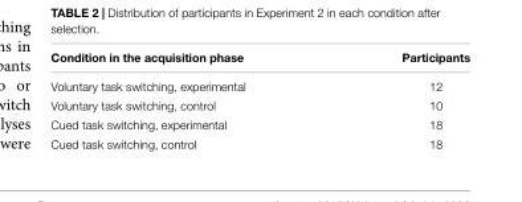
<table><thead><tr><td>Condition in the acquisition phase</td><td>Participants</td></tr></thead><tbody><tr><td>Voluntary task switching, experimental</td><td>12</td></tr><tr><td>Voluntary task switching, control</td><td>10</td></tr><tr><td>Cued task switching, experimental</td><td>18</td></tr><tr><td>Cued task switching, control</td><td>18</td></tr></tbody></table>